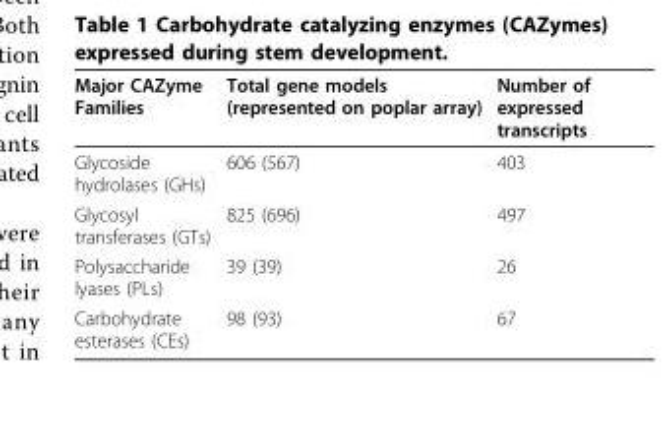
<table><thead><tr><td>Major CAZyme Families</td><td>Total gene models (represented on poplar array)</td><td>Number of expressed transcripts</td></tr></thead><tbody><tr><td>Glycoside hydrolases (GHs)</td><td>606 (567)</td><td>403</td></tr><tr><td>Glycosyl transferases (GTs)</td><td>825 (696)</td><td>497</td></tr><tr><td>Polysaccharide lyases (PLs)</td><td>39 (39)</td><td>26</td></tr><tr><td>Carbohydrate esterases (CEs)</td><td>98 (93)</td><td>67</td></tr></tbody></table>